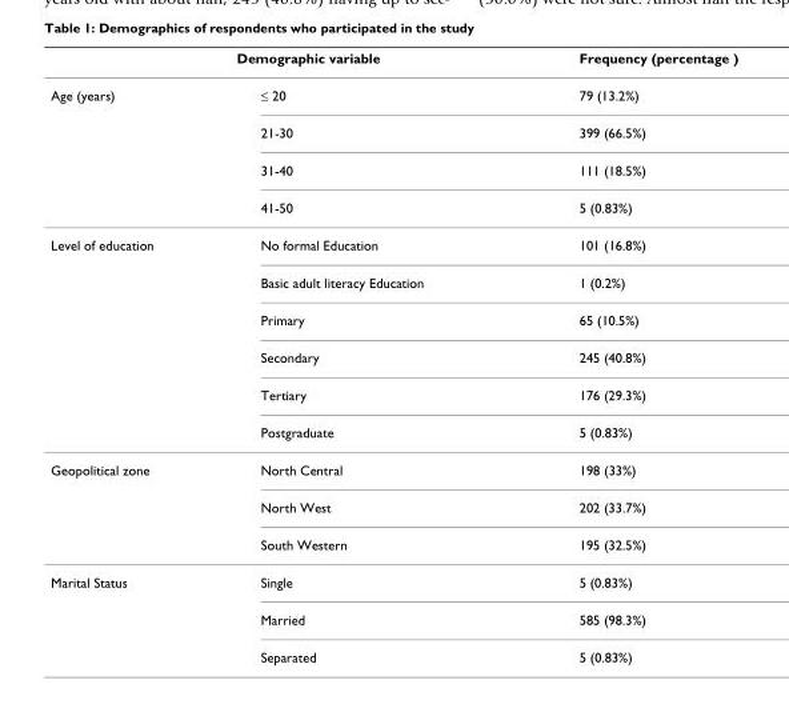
<table><thead><tr><td colspan="2">Demographic variable</td><td rowspan="2">Frequency (percentage ) 79 (13.2%)</td></tr><tr><td>Age (years)</td><td>≤ 20</td></tr></thead><tbody><tr><td></td><td>21-30</td><td>399 (66.5%)</td></tr><tr><td></td><td>31-40</td><td>111 (18.5%)</td></tr><tr><td></td><td>41-50</td><td>5 (0.83%)</td></tr><tr><td rowspan="6">Level of education</td><td>No formal Education</td><td>101 (16.8%)</td></tr><tr><td>Basic adult literacy Education</td><td>1 (0.2%)</td></tr><tr><td>Primary</td><td>65 (10.5%)</td></tr><tr><td>Secondary</td><td>245 (40.8%)</td></tr><tr><td>Tertiary</td><td>176 (29.3%)</td></tr><tr><td>Postgraduate</td><td>5 (0.83%)</td></tr><tr><td rowspan="3">Geopolitical zone</td><td>North Central</td><td>198 (33%)</td></tr><tr><td>North West</td><td>202 (33.7%)</td></tr><tr><td>South Western</td><td>195 (32.5%)</td></tr><tr><td rowspan="3">Marital Status</td><td>Single</td><td>5 (0.83%)</td></tr><tr><td>Married</td><td>585 (98.3%)</td></tr><tr><td>Separated</td><td>5 (0.83%)</td></tr></tbody></table>